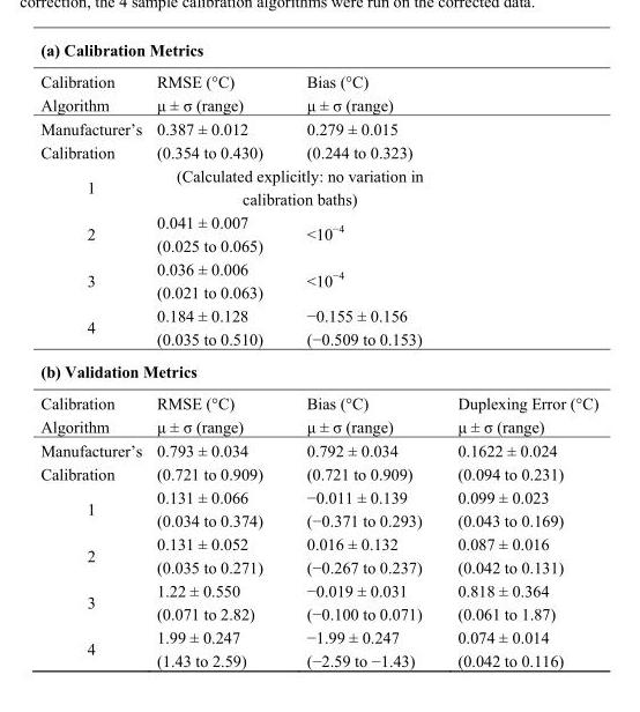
<table><tbody><tr><td colspan="4">(a) Calibration Metrics</td></tr><tr><td>Calibration Algorithm</td><td>RMSE (°C) μ ± σ (range)</td><td>Bias (°C) μ ± σ (range)</td><td></td></tr><tr><td>Manufacturer’s Calibration</td><td>0.387 ± 0.012 (0.354 to 0.430)</td><td>0.279 ± 0.015 (0.244 to 0.323)</td><td></td></tr><tr><td>1</td><td colspan="2">(Calculated explicitly: no variation in calibration baths)</td><td></td></tr><tr><td>2</td><td>0.041 ± 0.007 (0.025 to 0.065)</td><td>&lt;10<sup>−4</sup></td><td></td></tr><tr><td>3</td><td>0.036 ± 0.006 (0.021 to 0.063)</td><td>&lt;10<sup>−4</sup></td><td></td></tr><tr><td>4</td><td>0.184 ± 0.128 (0.035 to 0.510)</td><td>−0.155 ± 0.156 (−0.509 to 0.153)</td><td></td></tr><tr><td colspan="4">(b) Validation Metrics</td></tr><tr><td>Calibration Algorithm</td><td>RMSE (°C) μ ± σ (range)</td><td>Bias (°C) μ ± σ (range)</td><td>Duplexing Error (°C) μ ± σ (range)</td></tr><tr><td>Manufacturer’s Calibration</td><td>0.793 ± 0.034 (0.721 to 0.909)</td><td>0.792 ± 0.034 (0.721 to 0.909)</td><td>0.1622 ± 0.024 (0.094 to 0.231)</td></tr><tr><td>1</td><td>0.131 ± 0.066 (0.034 to 0.374)</td><td>−0.011 ± 0.139 (−0.371 to 0.293)</td><td>0.099 ± 0.023 (0.043 to 0.169)</td></tr><tr><td>2</td><td>0.131 ± 0.052 (0.035 to 0.271)</td><td>0.016 ± 0.132 (−0.267 to 0.237)</td><td>0.087 ± 0.016 (0.042 to 0.131)</td></tr><tr><td>3</td><td>1.22 ± 0.550 (0.071 to 2.82)</td><td>−0.019 ± 0.031 (−0.100 to 0.071)</td><td>0.818 ± 0.364 (0.061 to 1.87)</td></tr><tr><td>4</td><td>1.99 ± 0.247 (1.43 to 2.59)</td><td>−1.99 ± 0.247 (−2.59 to −1.43)</td><td>0.074 ± 0.014 (0.042 to 0.116)</td></tr></tbody></table>